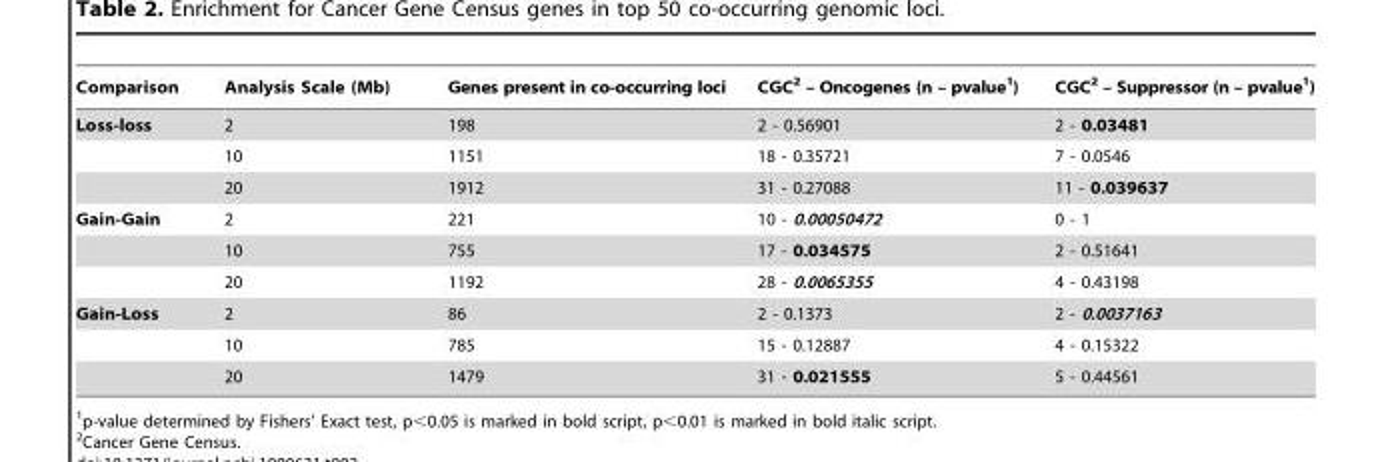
<table><thead><tr><td>Comparison</td><td>Analysis Scale (Mb)</td><td>Genes present in co-occurring loci</td><td>CGC<sup>2</sup> – Oncogenes (n – pvalue<sup>1</sup>)</td><td>CGC<sup>2</sup> – Suppressor (n – pvalue<sup>1</sup>)</td></tr></thead><tbody><tr><td rowspan="3">Loss-loss</td><td>2</td><td>198</td><td>2 - 0.56901</td><td>2 - 0.03481</td></tr><tr><td>10</td><td>1151</td><td>18 - 0.35721</td><td>7 - 0.0546</td></tr><tr><td>20</td><td>1912</td><td>31 - 0.27088</td><td>11 - 0.039637</td></tr><tr><td rowspan="3">Gain-Gain</td><td>2</td><td>221</td><td>10 - 0.00050472</td><td>0 - 1</td></tr><tr><td>10</td><td>755</td><td>17 - 0.034575</td><td>2 - 0.51641</td></tr><tr><td>20</td><td>1192</td><td>28 - 0.0065355</td><td>4 - 0.43198</td></tr><tr><td rowspan="3">Gain-Loss</td><td>2</td><td>86</td><td>2 - 0.1373</td><td>2 - 0.0037163</td></tr><tr><td>10</td><td>785</td><td>15 - 0.12887</td><td>4 - 0.15322</td></tr><tr><td>20</td><td>1479</td><td>31 - 0.021555</td><td>5 - 0.44561</td></tr></tbody></table>